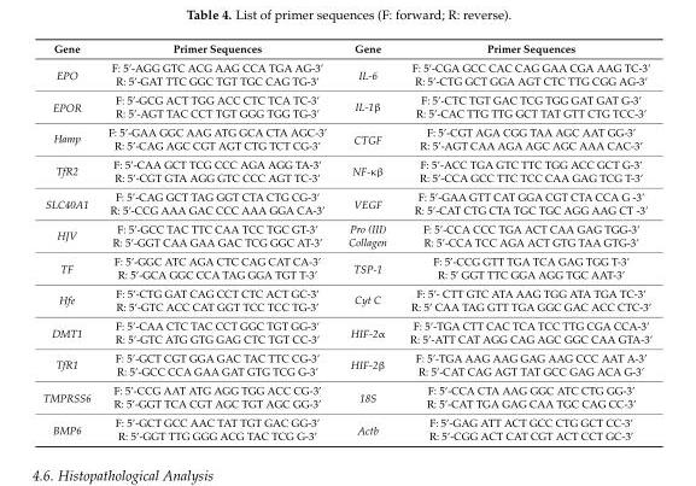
<table><thead><tr><td>Gene</td><td>Primer Sequences</td><td>Gene</td><td>Primer Sequences</td></tr></thead><tbody><tr><td rowspan="2">EPO</td><td>F: 5’-AGG GTC ACG AAG CCA TGA AG-3’</td><td rowspan="2">IL-6</td><td>F: 5’-CGA GCC CAC CAG GAA CGA AAG TC-3’</td></tr><tr><td>R: 5’-GAT TTC GGC TGT TGC CAG TG-3’</td><td>R: 5’-CTG GCT GGA AGT CTC TTG CGG AG-3’</td></tr><tr><td rowspan="2">EPOR</td><td>F: 5’-GCG ACT TGG ACC CTC TCA TC-3’</td><td rowspan="2">IL-1β</td><td>F: 5’-CTC TGT GAC TCG TGG GAT GAT G-3’</td></tr><tr><td>R: 5’-AGT TAC CCT TGT GGG TGG TG-3’</td><td>R: 5’-CAC TTG TTG GCT TAT GTT CTG TCC-3’</td></tr><tr><td rowspan="2">Hamp</td><td>F: 5’-GAA GGC AAG ATG GCA CTA AGC-3’</td><td rowspan="2">CTGF</td><td>F: 5’-CGT AGA CGG TAA AGC AAT GG-3’</td></tr><tr><td>R: 5’-CAG AGC CGT AGT CTG TCT CG-3’</td><td>R: 5’-AGT CAA AGA AGC AGC AAA CAC-3’</td></tr><tr><td rowspan="2">TfR2</td><td>F: 5’-CAA GCT TCG CCC AGA AGG TA-3’</td><td rowspan="2">NF-κβ</td><td>F: 5’-ACC TGA GTC TTC TGG ACC GCT G-3’</td></tr><tr><td>R: 5’-CGT GTA AGG GTC CCC AGT TC-3’</td><td>R: 5’-CCA GCC TTC TCC CAA GAG TCG T-3’</td></tr><tr><td rowspan="2">SLC40A1</td><td>F: 5’-CAG GCT TAG GGT CTA CTG CG-3’</td><td rowspan="2">VEGF</td><td>F: 5’-GAA GTT CAT GGA CGT CTA CCA G -3’</td></tr><tr><td>R: 5’-CCG AAA GAC CCC AAA GGA CA-3’</td><td>R: 5’-CAT CTG CTA TGC TGC AGG AAG CT -3’</td></tr><tr><td rowspan="2">HJV</td><td>F: 5’-GCC TAC TTC CAA TCC TGC GT-3’</td><td rowspan="2">Pro (III) Collagen</td><td>F: 5’-CCA CCC TGA ACT CAA GAG TGG-3’</td></tr><tr><td>R: 5’-GGT CAA GAA GAC TCG GGC AT-3’</td><td>R: 5’-CCA TCC AGA ACT GTG TAA GTG-3’</td></tr><tr><td rowspan="2">TF</td><td>F: 5’-GGC ATC AGA CTC CAG CAT CA-3’</td><td rowspan="2">TSP-1</td><td>F: 5’-CCG GTT TGA TCA GAG TGG T-3’</td></tr><tr><td>R: 5’-GCA GGC CCA TAG GGA TGT T-3’</td><td>R: 5’ GGT TTC GGA AGG TGC AAT-3’</td></tr><tr><td rowspan="2">Hfe</td><td>F: 5’-CTG GAT CAG CCT CTC ACT GC-3’</td><td rowspan="2">Cyt C</td><td>F: 5’- CTT GTC ATA AAG TGG ATA TGA TC-3’</td></tr><tr><td>R: 5’-GTC ACC CAT GGT TCC TCC TG-3’</td><td>R: 5’ CAA TAG GTT TGA GGC GAC ACC CTC-3’</td></tr><tr><td rowspan="2">DMT1</td><td>F: 5’-CAA CTC TAC CCT GGC TGT GG-3’</td><td rowspan="2">HIF-2α</td><td>F: 5’-TGA CTT CAC TCA TCC TTG CGA CCA-3’</td></tr><tr><td>R: 5’-GTC ATG GTG GAG CTC TGT CC-3’</td><td>R: 5’-ATT CAT AGG CAG AGC GGC CAA GTA-3’</td></tr><tr><td rowspan="2">TfR1</td><td>F: 5’-GCT CGT GGA GAC TAC TTC CG-3’</td><td rowspan="2">HIF-2β</td><td>F: 5’-TGA AAG AAG GAG AAG CCC AAT A-3’</td></tr><tr><td>R: 5’-GCC CCA GAA GAT GTG TCG G-3’</td><td>R: 5’-CAT CAG AGT TAT GCC GAG ACA G-3’</td></tr><tr><td rowspan="2">TMPRSS6</td><td>F: 5’-CCG AAT ATG AGG TGG ACC CG-3’</td><td rowspan="2">18S</td><td>F: 5’-CCA CTA AAG GGC ATC CTG GG-3’</td></tr><tr><td>R: 5’-GGT TCA CGT AGC TGT AGC GG-3’</td><td>R: 5’-CAT TGA GAG CAA TGC CAG CC-3’</td></tr><tr><td rowspan="2">BMP6</td><td>F: 5’-GCT GCC AAC TAT TGT GAC GG-3’</td><td rowspan="2">Actb</td><td>F: 5’-GAG ATT ACT GCC CTG GCT CC-3’</td></tr><tr><td>R: 5’-GGT TTG GGG ACG TAC TCG G-3’</td><td>R: 5’-CGG ACT CAT CGT ACT CCT GC-3’</td></tr></tbody></table>